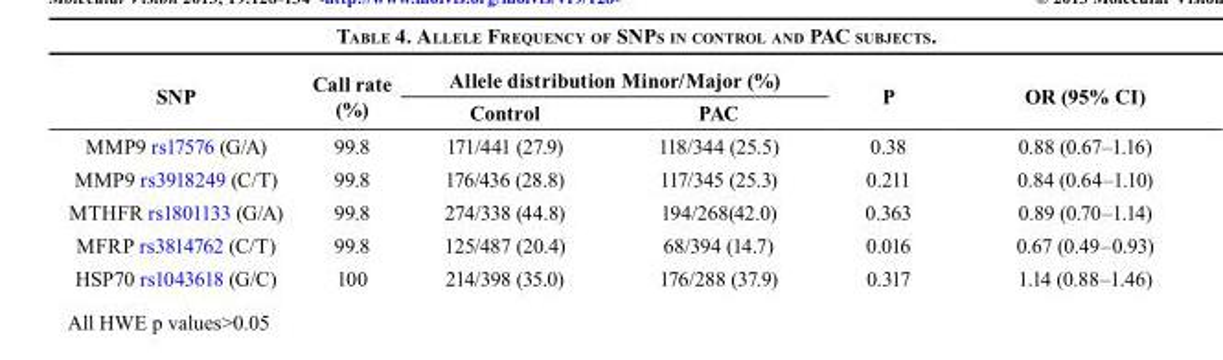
<table><thead><tr><td rowspan="2">SNP</td><td rowspan="2">Call rate (%)</td><td colspan="2">Allele distribution Minor/Major (%)</td><td rowspan="2">P</td><td rowspan="2">OR (95% CI)</td></tr><tr><td>Control</td><td>PAC</td></tr></thead><tbody><tr><td>MMP9 rs17576 (G/A)</td><td>99.8</td><td>171/441 (27.9)</td><td>118/344 (25.5)</td><td>0.38</td><td>0.88 (0.67–1.16)</td></tr><tr><td>MMP9 rs3918249 (C/T)</td><td>99.8</td><td>176/436 (28.8)</td><td>117/345 (25.3)</td><td>0.211</td><td>0.84 (0.64–1.10)</td></tr><tr><td>MTHFR rs1801133 (G/A)</td><td>99.8</td><td>274/338 (44.8)</td><td>194/268(42.0)</td><td>0.363</td><td>0.89 (0.70–1.14)</td></tr><tr><td>MFRP rs3814762 (C/T)</td><td>99.8</td><td>125/487 (20.4)</td><td>68/394 (14.7)</td><td>0.016</td><td>0.67 (0.49–0.93)</td></tr><tr><td>HSP70 rs1043618 (G/C)</td><td>100</td><td>214/398 (35.0)</td><td>176/288 (37.9)</td><td>0.317</td><td>1.14 (0.88–1.46)</td></tr></tbody></table>